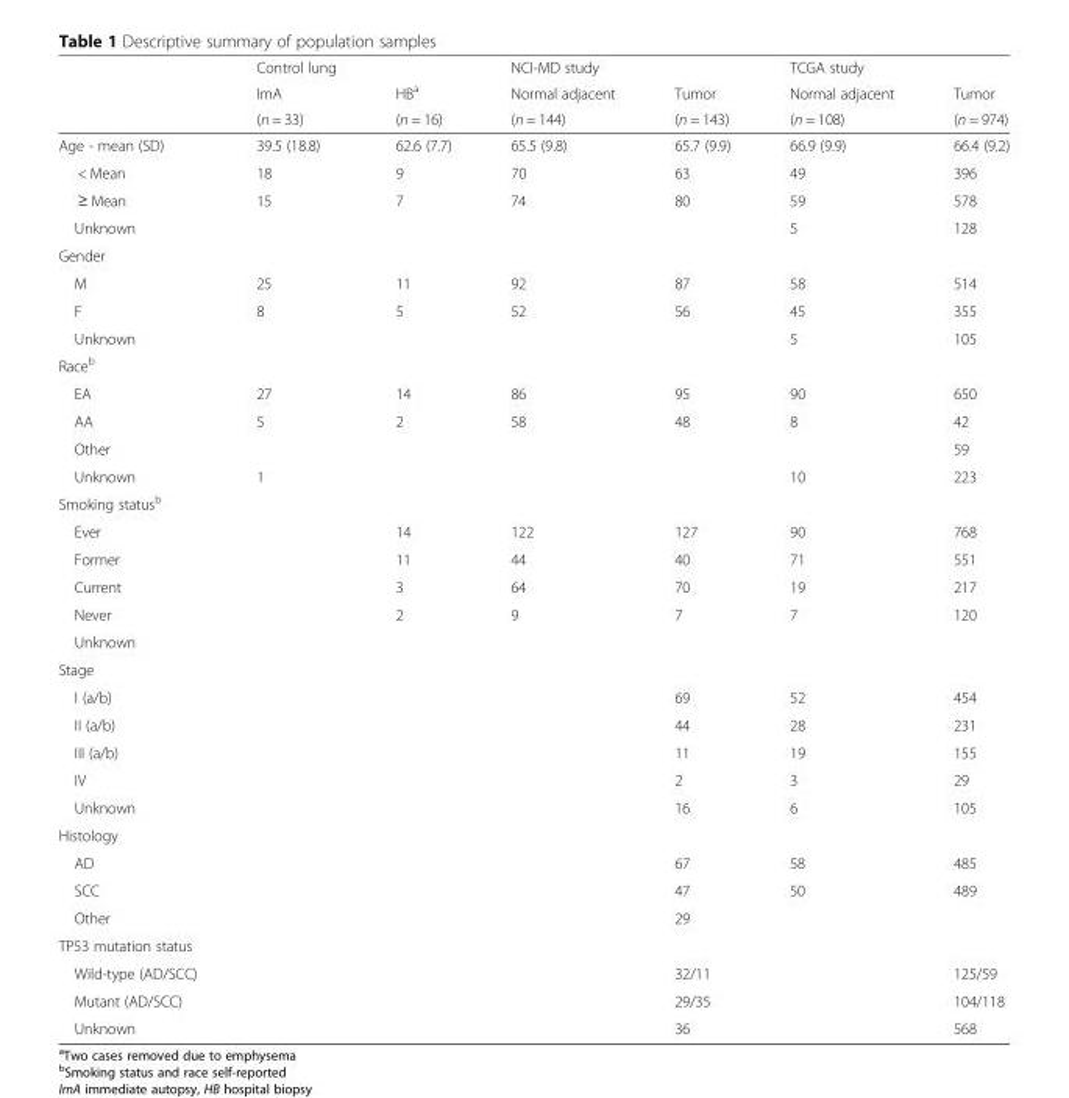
<table><thead><tr><td rowspan="3"></td><td rowspan="3">Control lung ImA (n = 33)</td><td rowspan="3">HB<sup>a</sup> (n = 16)</td><td rowspan="3">NCI-MD study Normal adjacent (n = 144)</td><td rowspan="3">Tumor (n = 143)</td><td rowspan="3">TCGA study Normal adjacent (n = 108)</td><td rowspan="3">Tumor (n = 974)</td></tr><tr></tr><tr></tr></thead><tbody><tr><td>Age - mean (SD)</td><td>39.5 (18.8)</td><td>62.6 (7.7)</td><td>65.5 (9.8)</td><td>65.7 (9.9)</td><td>66.9 (9.9)</td><td>66.4 (9.2)</td></tr><tr><td>&lt; Mean</td><td>18</td><td>9</td><td>70</td><td>63</td><td>49</td><td>396</td></tr><tr><td>≥ Mean</td><td>15</td><td>7</td><td>74</td><td>80</td><td>59</td><td>578</td></tr><tr><td>Unknown</td><td></td><td></td><td></td><td></td><td>5</td><td>128</td></tr><tr><td colspan="7">Gender</td></tr><tr><td>M</td><td>25</td><td>11</td><td>92</td><td>87</td><td>58</td><td>514</td></tr><tr><td>F</td><td>8</td><td>5</td><td>52</td><td>56</td><td>45</td><td>355</td></tr><tr><td>Unknown</td><td></td><td></td><td></td><td></td><td>5</td><td>105</td></tr><tr><td colspan="7">Race<sup>b</sup></td></tr><tr><td>EA</td><td>27</td><td>14</td><td>86</td><td>95</td><td>90</td><td>650</td></tr><tr><td>AA</td><td>5</td><td>2</td><td>58</td><td>48</td><td>8</td><td>42</td></tr><tr><td>Other</td><td></td><td></td><td></td><td></td><td></td><td>59</td></tr><tr><td>Unknown</td><td>1</td><td></td><td></td><td></td><td>10</td><td>223</td></tr><tr><td colspan="7">Smoking status<sup>b</sup></td></tr><tr><td>Ever</td><td></td><td>14</td><td>122</td><td>127</td><td>90</td><td>768</td></tr><tr><td>Former</td><td></td><td>11</td><td>44</td><td>40</td><td>71</td><td>551</td></tr><tr><td>Current</td><td></td><td>3</td><td>64</td><td>70</td><td>19</td><td>217</td></tr><tr><td>Never</td><td></td><td>2</td><td>9</td><td>7</td><td>7</td><td>120</td></tr><tr><td colspan="7">Unknown</td></tr><tr><td colspan="7">Stage</td></tr><tr><td>I (a/b)</td><td></td><td></td><td></td><td>69</td><td>52</td><td>454</td></tr><tr><td>II (a/b)</td><td></td><td></td><td></td><td>44</td><td>28</td><td>231</td></tr><tr><td>III (a/b)</td><td></td><td></td><td></td><td>11</td><td>19</td><td>155</td></tr><tr><td>IV</td><td></td><td></td><td></td><td>2</td><td>3</td><td>29</td></tr><tr><td>Unknown</td><td></td><td></td><td></td><td>16</td><td>6</td><td>105</td></tr><tr><td colspan="7">Histology</td></tr><tr><td>AD</td><td></td><td></td><td></td><td>67</td><td>58</td><td>485</td></tr><tr><td>SCC</td><td></td><td></td><td></td><td>47</td><td>50</td><td>489</td></tr><tr><td>Other</td><td></td><td></td><td></td><td>29</td><td></td><td></td></tr><tr><td colspan="7">TP53 mutation status</td></tr><tr><td>Wild-type (AD/SCC)</td><td></td><td></td><td></td><td>32/11</td><td></td><td>125/59</td></tr><tr><td>Mutant (AD/SCC)</td><td></td><td></td><td></td><td>29/35</td><td></td><td>104/118</td></tr><tr><td>Unknown</td><td></td><td></td><td></td><td>36</td><td></td><td>568</td></tr></tbody></table>